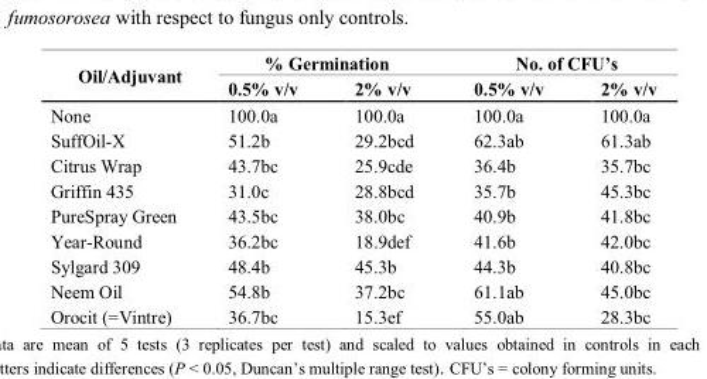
<table><thead><tr><td rowspan="2">Oil/Adjuvant</td><td colspan="2">% Germination</td><td colspan="2">������������</td></tr><tr><td>0.5% v/v</td><td>2% v/v</td><td>0.5% v/v</td><td>2% v/v</td></tr></thead><tbody><tr><td>None</td><td>100.0a</td><td>100.0a</td><td>100.0a</td><td>100.0a</td></tr><tr><td>SuffOil-X</td><td>51.2b</td><td>29.2bcd</td><td>62.3ab</td><td>61.3ab</td></tr><tr><td>Citrus Wrap</td><td>43.7bc</td><td>25.9cde</td><td>36.4b</td><td>35.7bc</td></tr><tr><td>Griffin 435</td><td>31.0c</td><td>28.8bcd</td><td>35.7b</td><td>45.3bc</td></tr><tr><td>PureSpray Green</td><td>43.5bc</td><td>38.0bc</td><td>40.9b</td><td>41.8bc</td></tr><tr><td>Year-Round</td><td>36.2bc</td><td>18.9def</td><td>41.6b</td><td>42.0bc</td></tr><tr><td>Sylgard 309</td><td>48.4b</td><td>45.3b</td><td>44.3b</td><td>40.8bc</td></tr><tr><td>Neem Oil</td><td>54.8b</td><td>37.2bc</td><td>61.1ab</td><td>45.0bc</td></tr><tr><td>Orocit (=Vintre)</td><td>36.7bc</td><td>15.3ef</td><td>55.0ab</td><td>28.3bc</td></tr></tbody></table>